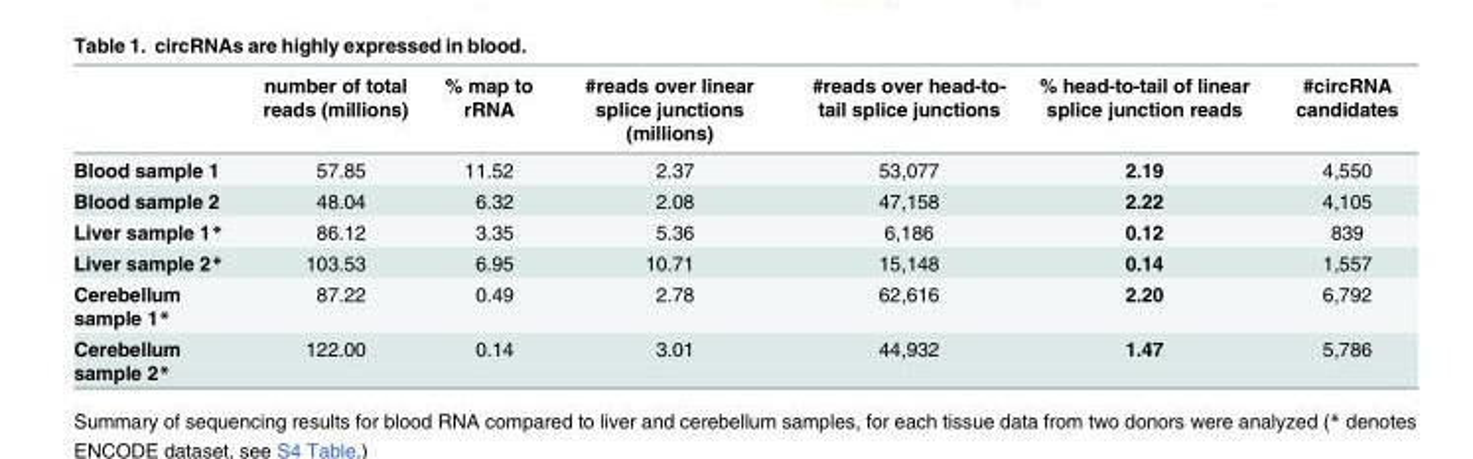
<table><thead><tr><td></td><td>number of total reads (millions)</td><td>% map to rRNA</td><td>#reads over linear splice junctions (millions)</td><td>#reads over head-to- tail splice junctions</td><td>% head-to-tail of linear splice junction reads</td><td>#circRNA candidates</td></tr></thead><tbody><tr><td>Blood sample 1</td><td>57.85</td><td>11.52</td><td>2.37</td><td>53,077</td><td>2.19</td><td>4,550</td></tr><tr><td>Blood sample 2</td><td>48.04</td><td>6.32</td><td>2.08</td><td>47,158</td><td>2.22</td><td>4,105</td></tr><tr><td>Liver sample 1*</td><td>86.12</td><td>3.35</td><td>5.36</td><td>6,186</td><td>0.12</td><td>839</td></tr><tr><td>Liver sample 2*</td><td>103.53</td><td>6.95</td><td>10.71</td><td>15,148</td><td>0.14</td><td>1,557</td></tr><tr><td>Cerebellum sample 1*</td><td>87.22</td><td>0.49</td><td>2.78</td><td>62,616</td><td>2.20</td><td>6,792</td></tr><tr><td>Cerebellum sample 2*</td><td>122.00</td><td>0.14</td><td>3.01</td><td>44,932</td><td>1.47</td><td>5,786</td></tr></tbody></table>